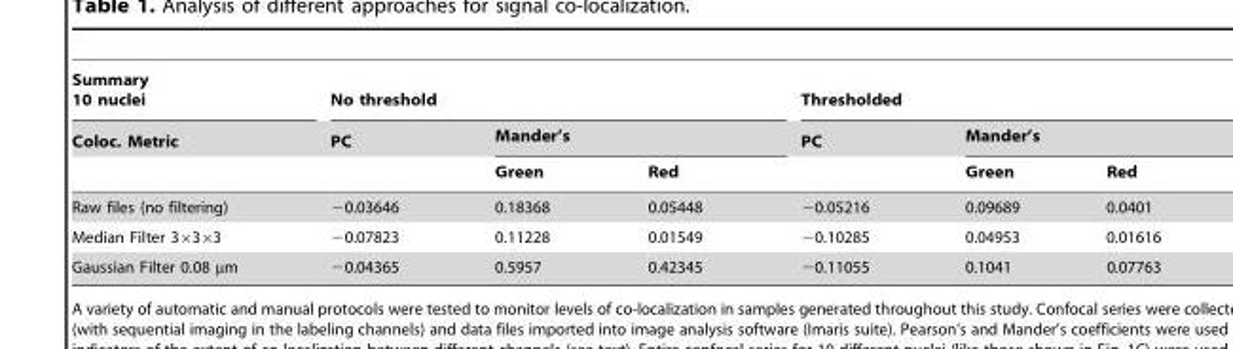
<table><thead><tr><td rowspan="3">Summary 10 nuclei Coloc. Metric</td><td colspan="3">No threshold</td><td colspan="3">Thresholded</td></tr><tr><td rowspan="2">PC</td><td colspan="2">Mander’s</td><td rowspan="2">PC</td><td colspan="2">Mander’s</td></tr><tr><td>Green</td><td>Red</td><td>Green</td><td>Red</td></tr></thead><tbody><tr><td>Raw files (no filtering)</td><td>−0.03646</td><td>0.18368</td><td>0.05448</td><td>−0.05216</td><td>0.09689</td><td>0.0401</td></tr><tr><td>Median Filter 3×3×3</td><td>−0.07823</td><td>0.11228</td><td>0.01549</td><td>−0.10285</td><td>0.04953</td><td>0.01616</td></tr><tr><td>Gaussian Filter 0.08 µm</td><td>−0.04365</td><td>0.5957</td><td>0.42345</td><td>−0.11055</td><td>0.1041</td><td>0.07763</td></tr></tbody></table>